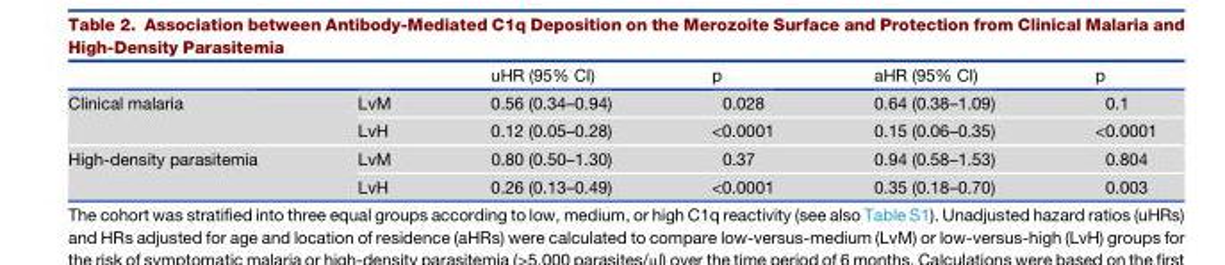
<table><thead><tr><td></td><td></td><td>uHR (95% CI)</td><td>p</td><td>aHR (95% CI)</td><td>p</td></tr></thead><tbody><tr><td rowspan="2">Clinical malaria</td><td>LvM</td><td>0.56 (0.34–0.94)</td><td>0.028</td><td>0.64 (0.38–1.09)</td><td>0.1</td></tr><tr><td>LvH</td><td>0.12 (0.05–0.28)</td><td>&lt;0.0001</td><td>0.15 (0.06–0.35)</td><td>&lt;0.0001</td></tr><tr><td rowspan="2">High-density parasitemia</td><td>LvM</td><td>0.80 (0.50–1.30)</td><td>0.37</td><td>0.94 (0.58–1.53)</td><td>0.804</td></tr><tr><td>LvH</td><td>0.26 (0.13–0.49)</td><td>&lt;0.0001</td><td>0.35 (0.18–0.70)</td><td>0.003</td></tr></tbody></table>